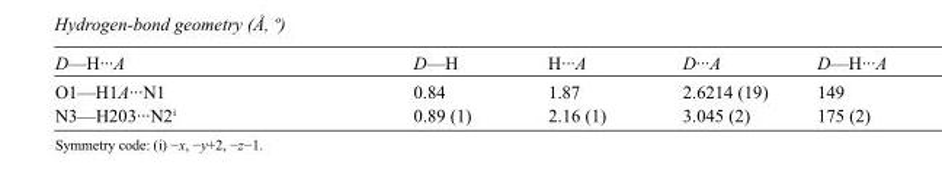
<table><tbody><tr><td>D—H···A</td><td>D—H</td><td>H···A</td><td>D···A</td><td>D—H···A</td></tr><tr><td>O1—H1A···N1</td><td>0.84</td><td>1.87</td><td>2.6214 (19)</td><td>149</td></tr><tr><td>N3—H203···N2<sup>i</sup></td><td>0.89 (1)</td><td>2.16 (1)</td><td>3.045 (2)</td><td>175 (2)</td></tr></tbody></table>